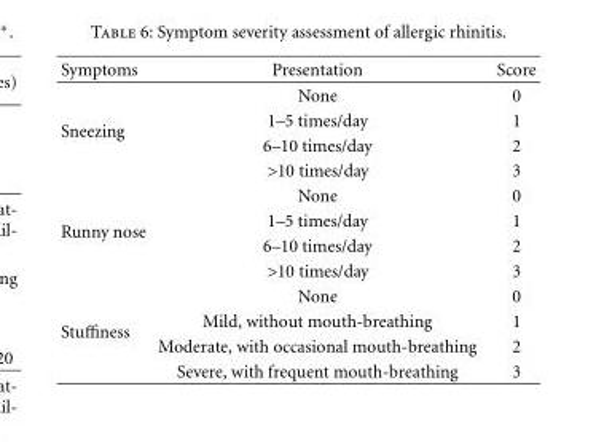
<table><thead><tr><td>Symptoms</td><td>Presentation</td><td>Score</td></tr></thead><tbody><tr><td rowspan="4">Sneezing</td><td>None</td><td>0</td></tr><tr><td>1–5 times/day</td><td>1</td></tr><tr><td>6–10 times/day</td><td>2</td></tr><tr><td>&gt;10 times/day</td><td>3</td></tr><tr><td rowspan="4">Runny nose</td><td>None</td><td>0</td></tr><tr><td>1–5 times/day</td><td>1</td></tr><tr><td>6–10 times/day</td><td>2</td></tr><tr><td>&gt;10 times/day</td><td>3</td></tr><tr><td rowspan="4">Stuffiness</td><td>None</td><td>0</td></tr><tr><td>Mild, without mouth-breathing</td><td>1</td></tr><tr><td>Moderate, with occasional mouth-breathing</td><td>2</td></tr><tr><td>Severe, with frequent mouth-breathing</td><td>3</td></tr></tbody></table>